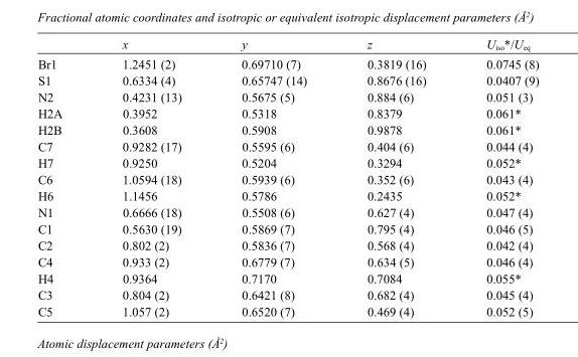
<table><thead><tr><td></td><td>x</td><td>y</td><td>z</td><td>U<sub>iso</sub>*/U<sub>eq</sub></td></tr></thead><tbody><tr><td>Br1</td><td>1.2451 (2)</td><td>0.69710 (7)</td><td>0.3819 (16)</td><td>0.0745 (8)</td></tr><tr><td>S1</td><td>0.6334 (4)</td><td>0.65747 (14)</td><td>0.8676 (16)</td><td>0.0407 (9)</td></tr><tr><td>N2</td><td>0.4231 (13)</td><td>0.5675 (5)</td><td>0.884 (6)</td><td>0.051 (3)</td></tr><tr><td>H2A</td><td>0.3952</td><td>0.5318</td><td>0.8379</td><td>0.061*</td></tr><tr><td>H2B</td><td>0.3608</td><td>0.5908</td><td>0.9878</td><td>0.061*</td></tr><tr><td>C7</td><td>0.9282 (17)</td><td>0.5595 (6)</td><td>0.404 (6)</td><td>0.044 (4)</td></tr><tr><td>H7</td><td>0.9250</td><td>0.5204</td><td>0.3294</td><td>0.052*</td></tr><tr><td>C6</td><td>1.0594 (18)</td><td>0.5939 (6)</td><td>0.352 (6)</td><td>0.043 (4)</td></tr><tr><td>H6</td><td>1.1456</td><td>0.5786</td><td>0.2435</td><td>0.052*</td></tr><tr><td>N1</td><td>0.6666 (18)</td><td>0.5508 (6)</td><td>0.627 (4)</td><td>0.047 (4)</td></tr><tr><td>C1</td><td>0.5630 (19)</td><td>0.5869 (7)</td><td>0.795 (4)</td><td>0.046 (5)</td></tr><tr><td>C2</td><td>0.802 (2)</td><td>0.5836 (7)</td><td>0.568 (4)</td><td>0.042 (4)</td></tr><tr><td>C4</td><td>0.933 (2)</td><td>0.6779 (7)</td><td>0.634 (5)</td><td>0.046 (4)</td></tr><tr><td>H4</td><td>0.9364</td><td>0.7170</td><td>0.7084</td><td>0.055*</td></tr><tr><td>C3</td><td>0.804 (2)</td><td>0.6421 (8)</td><td>0.682 (4)</td><td>0.045 (4)</td></tr><tr><td>C5</td><td>1.057 (2)</td><td>0.6520 (7)</td><td>0.469 (4)</td><td>0.052 (5)</td></tr></tbody></table>